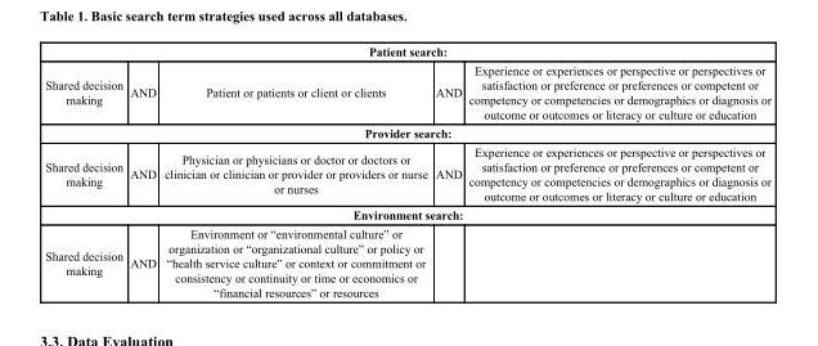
<table><thead><tr><td colspan="5">Patient search:</td></tr><tr><td>Shared decision making</td><td>AND</td><td>Patient or patients or client or clients</td><td>AND</td><td>Experience or experiences or perspective or perspectives or satisfaction or preference or preferences or competent or competency or competencies or demographics or diagnosis or outcome or outcomes or literacy or culture or education</td></tr></thead><tbody><tr><td colspan="5">Provider search:</td></tr><tr><td>Shared decision making</td><td>AND</td><td>Physician or physicians or doctor or doctors or clinician or clinician or provider or providers or nurse or nurses</td><td>AND</td><td>Experience or experiences or perspective or perspectives or satisfaction or preference or preferences or competent or competency or competencies or demographics or diagnosis or outcome or outcomes or literacy or culture or education</td></tr><tr><td colspan="5">Environment search:</td></tr><tr><td>Shared decision making</td><td>AND</td><td>Environment or “environmental culture” or organization or “organizational culture” or policy or “health service culture” or context or commitment or consistency or continuity or time or economics or “financial resources” or resources</td><td></td><td></td></tr></tbody></table>